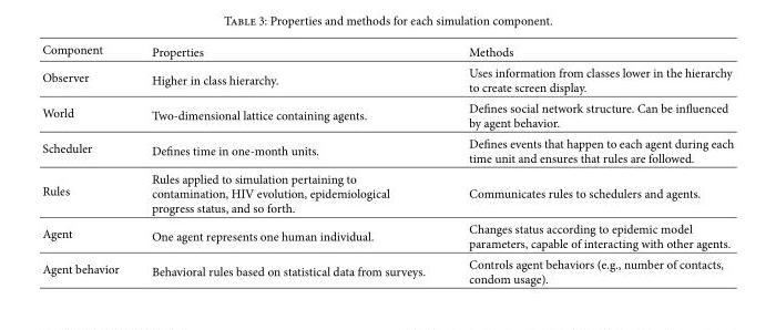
<table><thead><tr><td>Component</td><td>Properties</td><td>Methods</td></tr></thead><tbody><tr><td>Observer</td><td>Higher in class hierarchy.</td><td>Uses information from classes lower in the hierarchy to create screen display.</td></tr><tr><td>World</td><td>Two-dimensional lattice containing agents.</td><td>Defines social network structure. Can be influenced by agent behavior.</td></tr><tr><td>Scheduler</td><td>Defines time in one-month units.</td><td>Defines events that happen to each agent during each time unit and ensures that rules are followed.</td></tr><tr><td>Rules</td><td>Rules applied to simulation pertaining to contamination, HIV evolution, epidemiological progress status, and so forth.</td><td>Communicates rules to schedulers and agents.</td></tr><tr><td>Agent</td><td>One agent represents one human individual.</td><td>Changes status according to epidemic model parameters, capable of interacting with other agents.</td></tr><tr><td>Agent behavior</td><td>Behavioral rules based on statistical data from surveys.</td><td>Controls agent behaviors (e.g., number of contacts, condom usage).</td></tr></tbody></table>